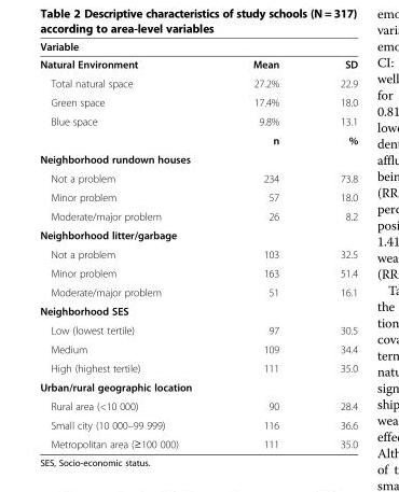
<table><thead><tr><td>Variable</td><td></td><td></td></tr></thead><tbody><tr><td>Natural Environment</td><td>Mean</td><td>SD</td></tr><tr><td>Total natural space</td><td>27.2%</td><td>22.9</td></tr><tr><td>Green space</td><td>17.4%</td><td>18.0</td></tr><tr><td rowspan="2">Blue space</td><td>9.8%</td><td>13.1</td></tr><tr><td>n</td><td>%</td></tr><tr><td colspan="3">Neighborhood rundown houses</td></tr><tr><td>Not a problem</td><td>234</td><td>73.8</td></tr><tr><td>Minor problem</td><td>57</td><td>18.0</td></tr><tr><td>Moderate/major problem</td><td>26</td><td>8.2</td></tr><tr><td colspan="3">Neighborhood litter/garbage</td></tr><tr><td>Not a problem</td><td>103</td><td>32.5</td></tr><tr><td>Minor problem</td><td>163</td><td>51.4</td></tr><tr><td>Moderate/major problem</td><td>51</td><td>16.1</td></tr><tr><td colspan="3">Neighborhood SES</td></tr><tr><td>Low (lowest tertile)</td><td>97</td><td>30.5</td></tr><tr><td>Medium</td><td>109</td><td>34.4</td></tr><tr><td>High (highest tertile)</td><td>111</td><td>35.0</td></tr><tr><td colspan="3">Urban/rural geographic location</td></tr><tr><td>Rural area (&lt;10 000)</td><td>90</td><td>28.4</td></tr><tr><td>Small city (10 000–99 999)</td><td>116</td><td>36.6</td></tr><tr><td>Metropolitan area (≥100 000)</td><td>111</td><td>35.0</td></tr></tbody></table>